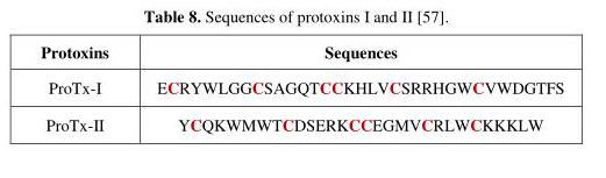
<table><thead><tr><td>Protoxins</td><td>Sequences</td></tr></thead><tbody><tr><td>ProTx-I</td><td>ECRYWLGGCSAGQTCCKHLVCSRRHGWCVWDGTFS</td></tr><tr><td>ProTx-II</td><td>YCQKWMWTCDSERKCCEGMVCRLWCKKKLW</td></tr></tbody></table>